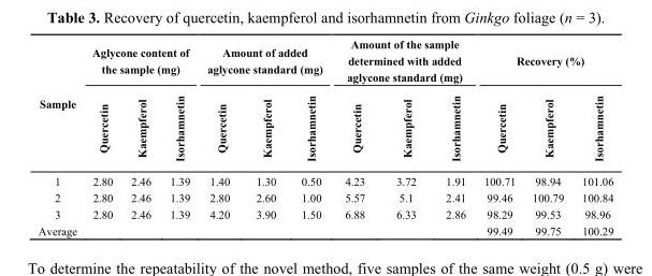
<table><thead><tr><td rowspan="2">Sample</td><td colspan="3">Aglycone content of the sample (mg)</td><td colspan="3">Amount of added aglycone standard (mg)</td><td colspan="3">Amount of the sample determined with added aglycone standard (mg)</td><td colspan="3">Recovery (%)</td></tr><tr><td>Quercetin</td><td>Kaempferol</td><td>Isorhamnetin</td><td>Quercetin</td><td>Kaempferol</td><td>Isorhamnetin</td><td>Quercetin</td><td>Kaempferol</td><td>Isorhamnetin</td><td>Quercetin</td><td>Kaempferol</td><td>Isorhamnetin</td></tr></thead><tbody><tr><td>1</td><td>2.80</td><td>2.46</td><td>1.39</td><td>1.40</td><td>1.30</td><td>0.50</td><td>4.23</td><td>3.72</td><td>1.91</td><td>100.71</td><td>98.94</td><td>101.06</td></tr><tr><td>2</td><td>2.80</td><td>2.46</td><td>1.39</td><td>2.80</td><td>2.60</td><td>1.00</td><td>5.57</td><td>5.1</td><td>2.41</td><td>99.46</td><td>100.79</td><td>100.84</td></tr><tr><td>3</td><td>2.80</td><td>2.46</td><td>1.39</td><td>4.20</td><td>3.90</td><td>1.50</td><td>6.88</td><td>6.33</td><td>2.86</td><td>98.29</td><td>99.53</td><td>98.96</td></tr><tr><td>Average</td><td></td><td></td><td></td><td></td><td></td><td></td><td></td><td></td><td></td><td>99.49</td><td>99.75</td><td>100.29</td></tr></tbody></table>